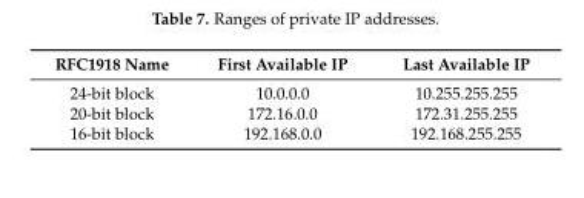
<table><thead><tr><td>RFC1918 Name</td><td>First Available IP</td><td>Last Available IP</td></tr></thead><tbody><tr><td>24-bit block</td><td>10.0.0.0</td><td>10.255.255.255</td></tr><tr><td>20-bit block</td><td>172.16.0.0</td><td>172.31.255.255</td></tr><tr><td>16-bit block</td><td>192.168.0.0</td><td>192.168.255.255</td></tr></tbody></table>